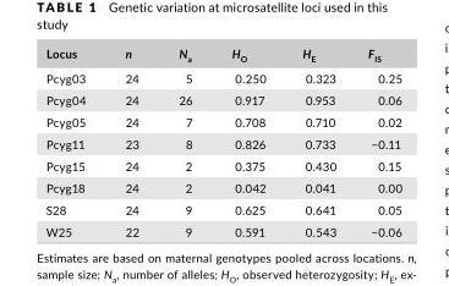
<table><thead><tr><td>Locus</td><td>n</td><td>N<sub>a</sub></td><td>H<sub>O</sub></td><td>H<sub>E</sub></td><td>F<sub>IS</sub></td></tr></thead><tbody><tr><td>Pcyg03</td><td>24</td><td>5</td><td>0.250</td><td>0.323</td><td>0.25</td></tr><tr><td>Pcyg04</td><td>24</td><td>26</td><td>0.917</td><td>0.953</td><td>0.06</td></tr><tr><td>Pcyg05</td><td>24</td><td>7</td><td>0.708</td><td>0.710</td><td>0.02</td></tr><tr><td>Pcyg11</td><td>23</td><td>8</td><td>0.826</td><td>0.733</td><td>−0.11</td></tr><tr><td>Pcyg15</td><td>24</td><td>2</td><td>0.375</td><td>0.430</td><td>0.15</td></tr><tr><td>Pcyg18</td><td>24</td><td>2</td><td>0.042</td><td>0.041</td><td>0.00</td></tr><tr><td>S28</td><td>24</td><td>9</td><td>0.625</td><td>0.641</td><td>0.05</td></tr><tr><td>W25</td><td>22</td><td>9</td><td>0.591</td><td>0.543</td><td>−0.06</td></tr></tbody></table>